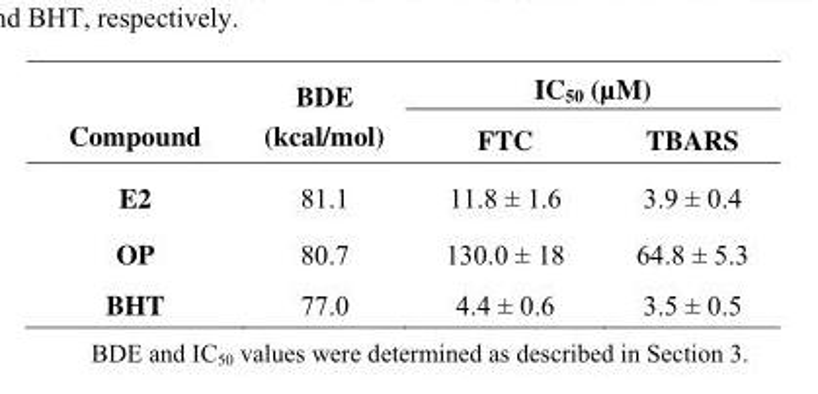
<table><thead><tr><td rowspan="2">Compound</td><td rowspan="2">BDE (kcal/mol)</td><td colspan="2">IC<sub>50</sub> (µM)</td></tr><tr><td>FTC</td><td>TBARS</td></tr></thead><tbody><tr><td>E2</td><td>81.1</td><td>11.8 ± 1.6</td><td>3.9 ± 0.4</td></tr><tr><td>OP</td><td>80.7</td><td>130.0 ± 18</td><td>64.8 ± 5.3</td></tr><tr><td>BHT</td><td>77.0</td><td>4.4 ± 0.6</td><td>3.5 ± 0.5</td></tr></tbody></table>